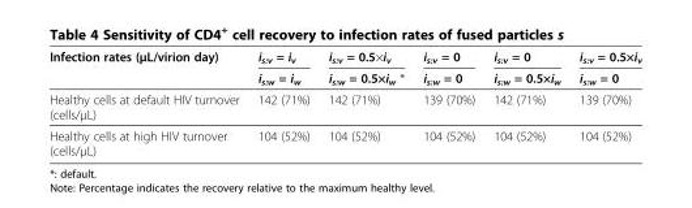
<table><thead><tr><td rowspan="2">Infection rates (μL/virion day)</td><td rowspan="2">is:v = iv is:w = iw</td><td rowspan="2">is:v = 0.5×iv is:w = 0.5×iw *</td><td rowspan="2">i<sub>s:v</sub> = 0 i<sub>s:w</sub> = 0</td><td rowspan="2">is:v = 0 is:w = 0.5×iw</td><td rowspan="2">is:v = 0.5×iv is:w = 0</td></tr><tr></tr></thead><tbody><tr><td>Healthy cells at default HIV turnover (cells/μL)</td><td>142 (71%)</td><td>142 (71%)</td><td>139 (70%)</td><td>142 (71%)</td><td>139 (70%)</td></tr><tr><td>Healthy cells at high HIV turnover (cells/μL)</td><td>104 (52%)</td><td>104 (52%)</td><td>104 (52%)</td><td>104 (52%)</td><td>104 (52%)</td></tr></tbody></table>